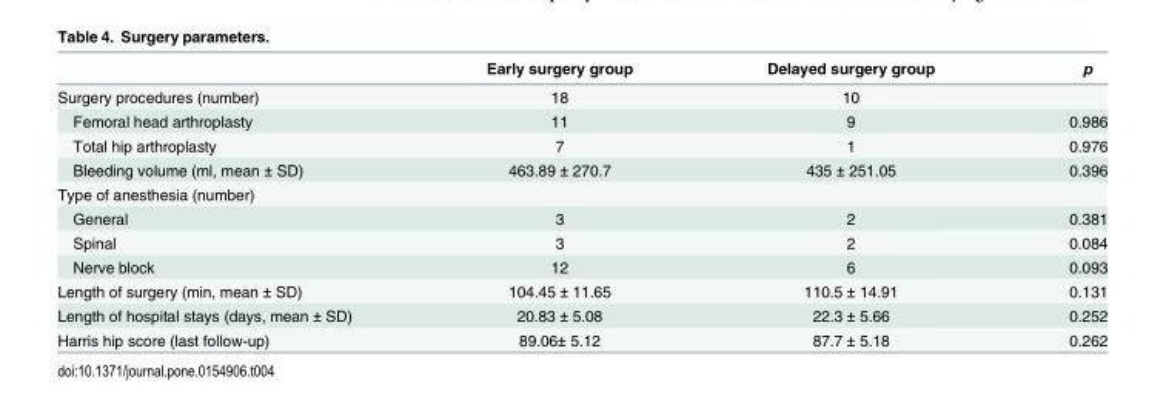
<table><thead><tr><td></td><td>Early surgery group</td><td>Delayed surgery group</td><td>p</td></tr></thead><tbody><tr><td>Surgery procedures (number)</td><td>18</td><td>10</td><td></td></tr><tr><td>Femoral head arthroplasty</td><td>11</td><td>9</td><td>0.986</td></tr><tr><td>Total hip arthroplasty</td><td>7</td><td>1</td><td>0.976</td></tr><tr><td>Bleeding volume (ml, mean ± SD)</td><td>463.89 ± 270.7</td><td>435 ± 251.05</td><td>0.396</td></tr><tr><td colspan="4">Type of anesthesia (number)</td></tr><tr><td>General</td><td>3</td><td>2</td><td>0.381</td></tr><tr><td>Spinal</td><td>3</td><td>2</td><td>0.084</td></tr><tr><td>Nerve block</td><td>12</td><td>6</td><td>0.093</td></tr><tr><td>Length of surgery (min, mean ± SD)</td><td>104.45 ± 11.65</td><td>110.5 ± 14.91</td><td>0.131</td></tr><tr><td>Length of hospital stays (days, mean ± SD)</td><td>20.83 ± 5.08</td><td>22.3 ± 5.66</td><td>0.252</td></tr><tr><td>Harris hip score (last follow-up)</td><td>89.06± 5.12</td><td>87.7 ± 5.18</td><td>0.262</td></tr></tbody></table>